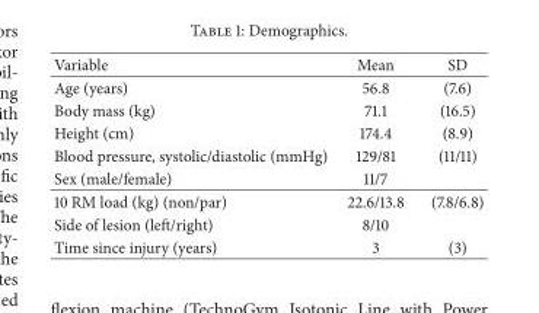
<table><thead><tr><td>Variable</td><td>Mean</td><td>SD</td></tr></thead><tbody><tr><td>Age (years)</td><td>56.8</td><td>(7.6)</td></tr><tr><td>Body mass (kg)</td><td>71.1</td><td>(16.5)</td></tr><tr><td>Height (cm)</td><td>174.4</td><td>(8.9)</td></tr><tr><td>Blood pressure, systolic/diastolic (mmHg)</td><td>129/81</td><td>(11/11)</td></tr><tr><td>Sex (male/female)</td><td>11/7</td><td></td></tr><tr><td>10 RM load (kg) (non/par)</td><td>22.6/13.8</td><td>(7.8/6.8)</td></tr><tr><td>Side of lesion (left/right)</td><td>8/10</td><td></td></tr><tr><td>Time since injury (years)</td><td>3</td><td>(3)</td></tr></tbody></table>